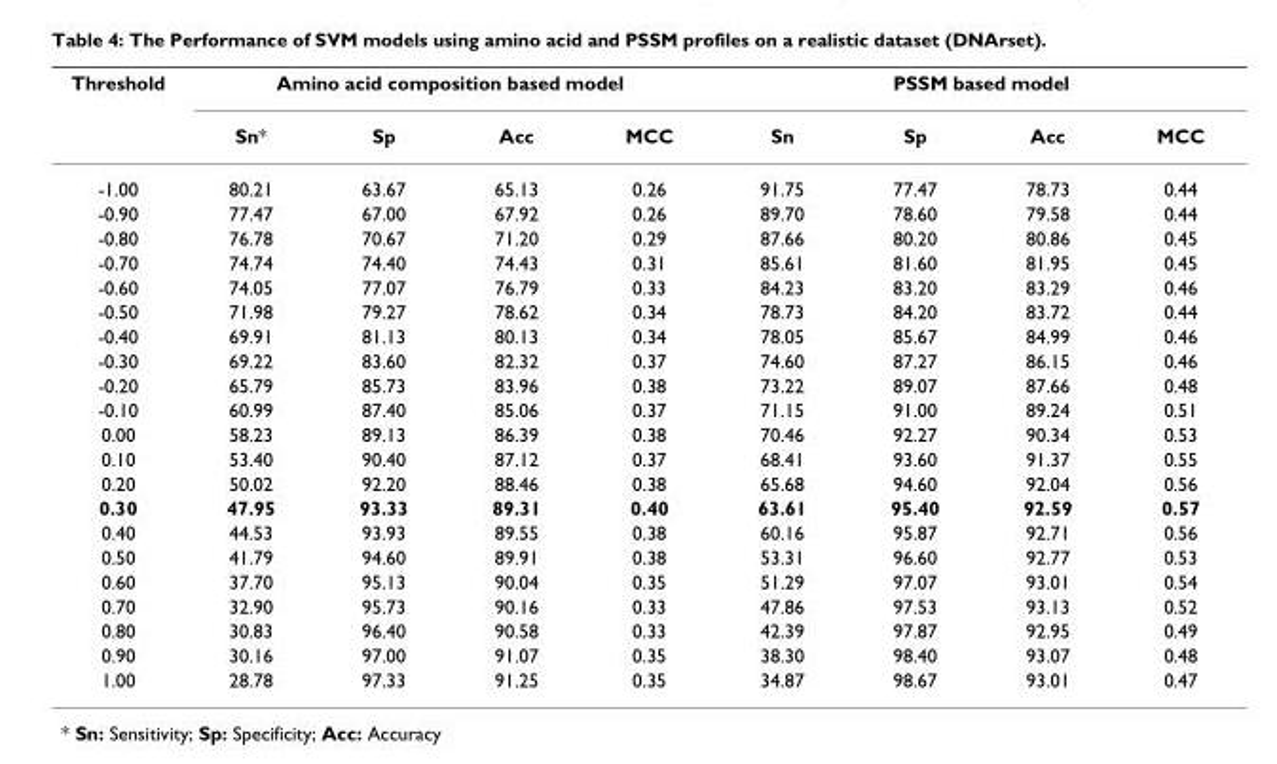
<table><thead><tr><td rowspan="2">Threshold</td><td colspan="4">Amino acid composition based model</td><td colspan="4">PSSM based model</td></tr><tr><td>Sn*</td><td>Sp</td><td>Acc</td><td>MCC</td><td>Sn</td><td>Sp</td><td>Acc</td><td>MCC</td></tr></thead><tbody><tr><td>-1.00</td><td>80.21</td><td>63.67</td><td>65.13</td><td>0.26</td><td>91.75</td><td>77.47</td><td>78.73</td><td>0.44</td></tr><tr><td>-0.90</td><td>77.47</td><td>67.00</td><td>67.92</td><td>0.26</td><td>89.70</td><td>78.60</td><td>79.58</td><td>0.44</td></tr><tr><td>-0.80</td><td>76.78</td><td>70.67</td><td>71.20</td><td>0.29</td><td>87.66</td><td>80.20</td><td>80.86</td><td>0.45</td></tr><tr><td>-0.70</td><td>74.74</td><td>74.40</td><td>74.43</td><td>0.31</td><td>85.61</td><td>81.60</td><td>81.95</td><td>0.45</td></tr><tr><td>-0.60</td><td>74.05</td><td>77.07</td><td>76.79</td><td>0.33</td><td>84.23</td><td>83.20</td><td>83.29</td><td>0.46</td></tr><tr><td>-0.50</td><td>71.98</td><td>79.27</td><td>78.62</td><td>0.34</td><td>78.73</td><td>84.20</td><td>83.72</td><td>0.44</td></tr><tr><td>-0.40</td><td>69.91</td><td>81.13</td><td>80.13</td><td>0.34</td><td>78.05</td><td>85.67</td><td>84.99</td><td>0.46</td></tr><tr><td>-0.30</td><td>69.22</td><td>83.60</td><td>82.32</td><td>0.37</td><td>74.60</td><td>87.27</td><td>86.15</td><td>0.46</td></tr><tr><td>-0.20</td><td>65.79</td><td>85.73</td><td>83.96</td><td>0.38</td><td>73.22</td><td>89.07</td><td>87.66</td><td>0.48</td></tr><tr><td>-0.10</td><td>60.99</td><td>87.40</td><td>85.06</td><td>0.37</td><td>71.15</td><td>91.00</td><td>89.24</td><td>0.51</td></tr><tr><td>0.00</td><td>58.23</td><td>89.13</td><td>86.39</td><td>0.38</td><td>70.46</td><td>92.27</td><td>90.34</td><td>0.53</td></tr><tr><td>0.10</td><td>53.40</td><td>90.40</td><td>87.12</td><td>0.37</td><td>68.41</td><td>93.60</td><td>91.37</td><td>0.55</td></tr><tr><td>0.20</td><td>50.02</td><td>92.20</td><td>88.46</td><td>0.38</td><td>65.68</td><td>94.60</td><td>92.04</td><td>0.56</td></tr><tr><td>0.30</td><td>47.95</td><td>93.33</td><td>89.31</td><td>0.40</td><td>63.61</td><td>95.40</td><td>92.59</td><td>0.57</td></tr><tr><td>0.40</td><td>44.53</td><td>93.93</td><td>89.55</td><td>0.38</td><td>60.16</td><td>95.87</td><td>92.71</td><td>0.56</td></tr><tr><td>0.50</td><td>41.79</td><td>94.60</td><td>89.91</td><td>0.38</td><td>53.31</td><td>96.60</td><td>92.77</td><td>0.53</td></tr><tr><td>0.60</td><td>37.70</td><td>95.13</td><td>90.04</td><td>0.35</td><td>51.29</td><td>97.07</td><td>93.01</td><td>0.54</td></tr><tr><td>0.70</td><td>32.90</td><td>95.73</td><td>90.16</td><td>0.33</td><td>47.86</td><td>97.53</td><td>93.13</td><td>0.52</td></tr><tr><td>0.80</td><td>30.83</td><td>96.40</td><td>90.58</td><td>0.33</td><td>42.39</td><td>97.87</td><td>92.95</td><td>0.49</td></tr><tr><td>0.90</td><td>30.16</td><td>97.00</td><td>91.07</td><td>0.35</td><td>38.30</td><td>98.40</td><td>93.07</td><td>0.48</td></tr><tr><td>1.00</td><td>28.78</td><td>97.33</td><td>91.25</td><td>0.35</td><td>34.87</td><td>98.67</td><td>93.01</td><td>0.47</td></tr></tbody></table>